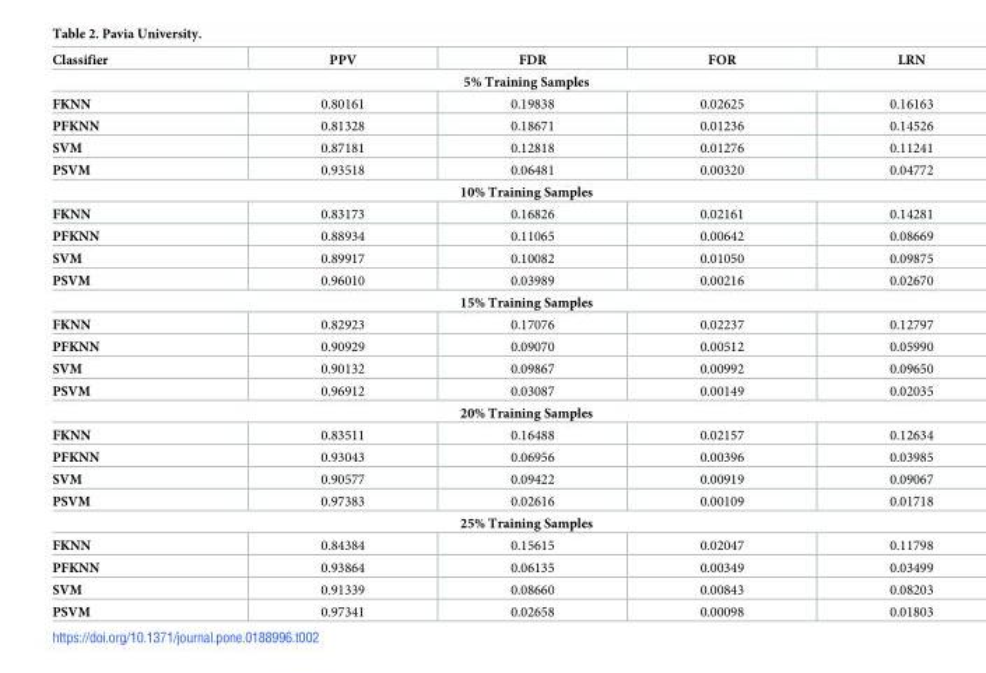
<table><thead><tr><td>Classifier</td><td>PPV</td><td>FDR</td><td>FOR</td><td>LRN</td></tr></thead><tbody><tr><td colspan="5">5% Training Samples</td></tr><tr><td>FKNN</td><td>0.80161</td><td>0.19838</td><td>0.02625</td><td>0.16163</td></tr><tr><td>PFKNN</td><td>0.81328</td><td>0.18671</td><td>0.01236</td><td>0.14526</td></tr><tr><td>SVM</td><td>0.87181</td><td>0.12818</td><td>0.01276</td><td>0.11241</td></tr><tr><td>PSVM</td><td>0.93518</td><td>0.06481</td><td>0.00320</td><td>0.04772</td></tr><tr><td colspan="5">10% Training Samples</td></tr><tr><td>FKNN</td><td>0.83173</td><td>0.16826</td><td>0.02161</td><td>0.14281</td></tr><tr><td>PFKNN</td><td>0.88934</td><td>0.11065</td><td>0.00642</td><td>0.08669</td></tr><tr><td>SVM</td><td>0.89917</td><td>0.10082</td><td>0.01050</td><td>0.09875</td></tr><tr><td>PSVM</td><td>0.96010</td><td>0.03989</td><td>0.00216</td><td>0.02670</td></tr><tr><td colspan="5">15% Training Samples</td></tr><tr><td>FKNN</td><td>0.82923</td><td>0.17076</td><td>0.02237</td><td>0.12797</td></tr><tr><td>PFKNN</td><td>0.90929</td><td>0.09070</td><td>0.00512</td><td>0.05990</td></tr><tr><td>SVM</td><td>0.90132</td><td>0.09867</td><td>0.00992</td><td>0.09650</td></tr><tr><td>PSVM</td><td>0.96912</td><td>0.03087</td><td>0.00149</td><td>0.02035</td></tr><tr><td colspan="5">20% Training Samples</td></tr><tr><td>FKNN</td><td>0.83511</td><td>0.16488</td><td>0.02157</td><td>0.12634</td></tr><tr><td>PFKNN</td><td>0.93043</td><td>0.06956</td><td>0.00396</td><td>0.03985</td></tr><tr><td>SVM</td><td>0.90577</td><td>0.09422</td><td>0.00919</td><td>0.09067</td></tr><tr><td>PSVM</td><td>0.97383</td><td>0.02616</td><td>0.00109</td><td>0.01718</td></tr><tr><td colspan="5">25% Training Samples</td></tr><tr><td>FKNN</td><td>0.84384</td><td>0.15615</td><td>0.02047</td><td>0.11798</td></tr><tr><td>PFKNN</td><td>0.93864</td><td>0.06135</td><td>0.00349</td><td>0.03499</td></tr><tr><td>SVM</td><td>0.91339</td><td>0.08660</td><td>0.00843</td><td>0.08203</td></tr><tr><td>PSVM</td><td>0.97341</td><td>0.02658</td><td>0.00098</td><td>0.01803</td></tr></tbody></table>